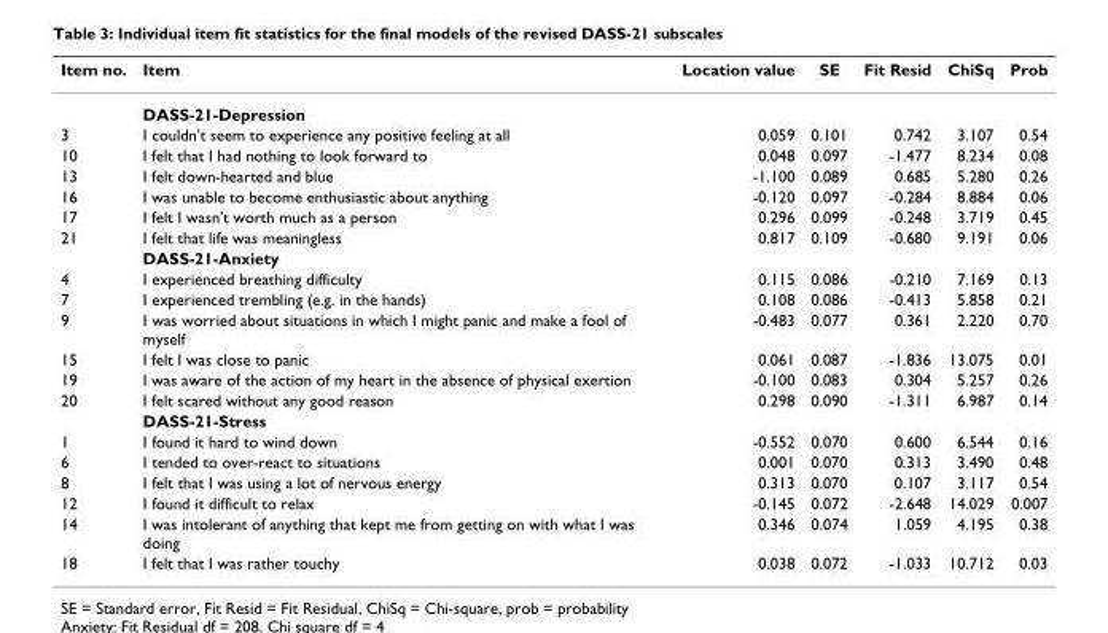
<table><thead><tr><td>Item no.</td><td>Item</td><td>Location value</td><td>SE</td><td>Fit Resid</td><td>ChiSq</td><td>Prob</td></tr></thead><tbody><tr><td></td><td>DASS-21-Depression</td><td></td><td></td><td></td><td></td><td></td></tr><tr><td>3</td><td>I couldn&#x27;t seem to experience any positive feeling at all</td><td>0.059</td><td>0.101</td><td>0.742</td><td>3.107</td><td>0.54</td></tr><tr><td>10</td><td>I felt that I had nothing to look forward to</td><td>0.048</td><td>0.097</td><td>-1.477</td><td>8.234</td><td>0.08</td></tr><tr><td>13</td><td>I felt down-hearted and blue</td><td>-1.100</td><td>0.089</td><td>0.685</td><td>5.280</td><td>0.26</td></tr><tr><td>16</td><td>I was unable to become enthusiastic about anything</td><td>-0.120</td><td>0.097</td><td>-0.284</td><td>8.884</td><td>0.06</td></tr><tr><td>17</td><td>I felt I wasn&#x27;t worth much as a person</td><td>0.296</td><td>0.099</td><td>-0.248</td><td>3.719</td><td>0.45</td></tr><tr><td rowspan="2">21</td><td>I felt that life was meaningless</td><td>0.817</td><td>0.109</td><td>-0.680</td><td>9.191</td><td>0.06</td></tr><tr><td>DASS-21-Anxiety</td><td></td><td></td><td></td><td></td><td></td></tr><tr><td>4</td><td>I experienced breathing difficulty</td><td>0.115</td><td>0.086</td><td>-0.210</td><td>7.169</td><td>0.13</td></tr><tr><td>7</td><td>I experienced trembling (e.g. in the hands)</td><td>0.108</td><td>0.086</td><td>-0.413</td><td>5.858</td><td>0.21</td></tr><tr><td>9</td><td>I was worried about situations in which I might panic and make a fool of myself</td><td>-0.483</td><td>0.077</td><td>0.361</td><td>2.220</td><td>0.70</td></tr><tr><td>15</td><td>I felt I was close to panic</td><td>0.061</td><td>0.087</td><td>-1.836</td><td>13.075</td><td>0.01</td></tr><tr><td>19</td><td>I was aware of the action of my heart in the absence of physical exertion</td><td>-0.100</td><td>0.083</td><td>0.304</td><td>5.257</td><td>0.26</td></tr><tr><td rowspan="2">20</td><td>I felt scared without any good reason</td><td>0.298</td><td>0.090</td><td>-1.311</td><td>6.987</td><td>0.14</td></tr><tr><td>DASS-21-Stress</td><td></td><td></td><td></td><td></td><td></td></tr><tr><td>1</td><td>I found it hard to wind down</td><td>-0.552</td><td>0.070</td><td>0.600</td><td>6.544</td><td>0.16</td></tr><tr><td>6</td><td>I tended to over-react to situations</td><td>0.001</td><td>0.070</td><td>0.313</td><td>3.490</td><td>0.48</td></tr><tr><td>8</td><td>I felt that I was using a lot of nervous energy</td><td>0.313</td><td>0.070</td><td>0.107</td><td>3.117</td><td>0.54</td></tr><tr><td>12</td><td>I found it difficult to relax</td><td>-0.145</td><td>0.072</td><td>-2.648</td><td>14.029</td><td>0.007</td></tr><tr><td>14</td><td>I was intolerant of anything that kept me from getting on with what I was doing</td><td>0.346</td><td>0.074</td><td>1.059</td><td>4.195</td><td>0.38</td></tr><tr><td>18</td><td>I felt that I was rather touchy</td><td>0.038</td><td>0.072</td><td>-1.033</td><td>10.712</td><td>0.03</td></tr></tbody></table>